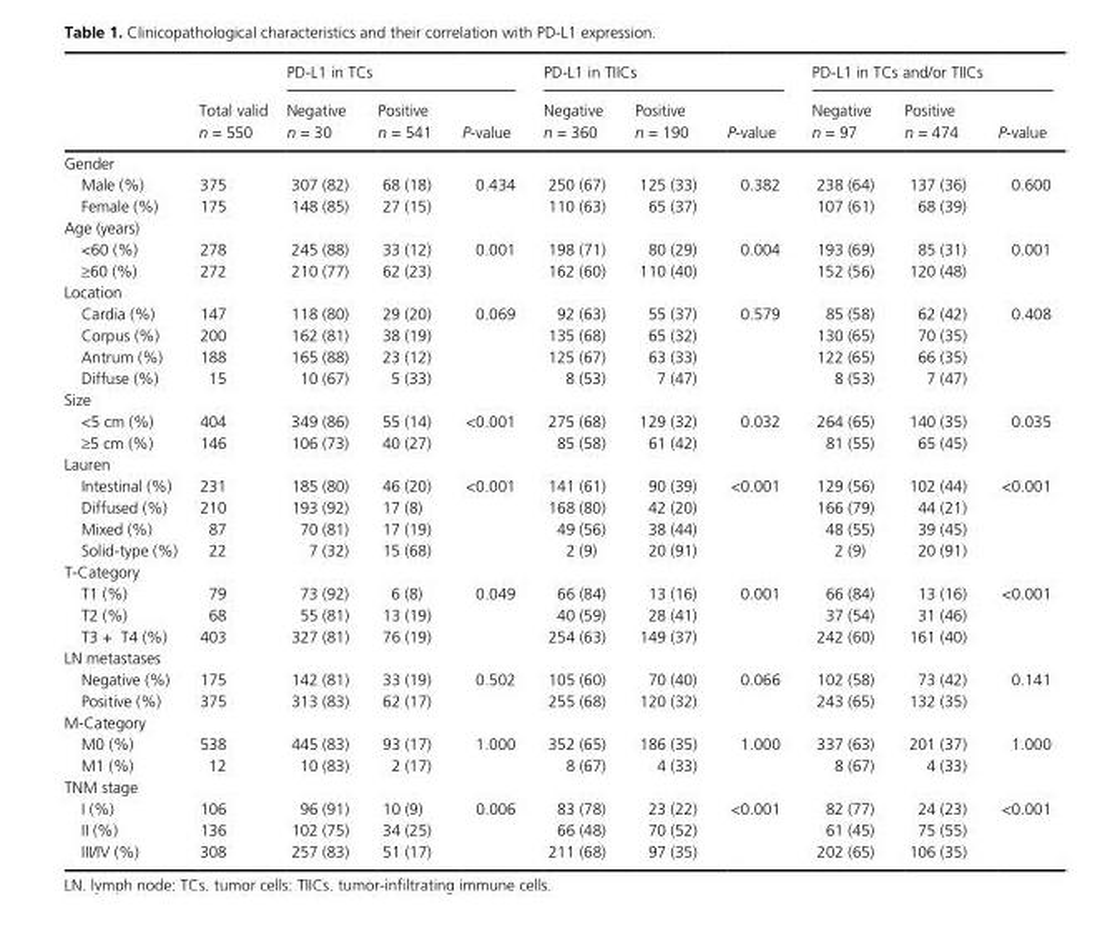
<table><thead><tr><td rowspan="2"></td><td rowspan="2">Total valid n = 550</td><td colspan="3">PD- L1 in TCs</td><td colspan="3">PD- L1 in TIICs</td><td colspan="3">PD- L1 in TCs and/or TIICs</td></tr><tr><td>Negative n = 30</td><td>Positive n = 541</td><td>P- value</td><td>Negative n = 360</td><td>Positive n = 190</td><td>P- value</td><td>Negative n = 97</td><td>Positive n = 474</td><td>P- value</td></tr></thead><tbody><tr><td colspan="11">Gender</td></tr><tr><td>Male (%)</td><td>375</td><td>307 (82)</td><td>68 (18)</td><td rowspan="2">0.434</td><td>250 (67)</td><td>125 (33)</td><td rowspan="2">0.382</td><td>238 (64)</td><td>137 (36)</td><td rowspan="2">0.600</td></tr><tr><td>Female (%)</td><td>175</td><td>148 (85)</td><td>27 (15)</td><td>110 (63)</td><td>65 (37)</td><td>107 (61)</td><td>68 (39)</td></tr><tr><td colspan="11">Age (years)</td></tr><tr><td>&lt;60 (%)</td><td>278</td><td>245 (88)</td><td>33 (12)</td><td rowspan="2">0.001</td><td>198 (71)</td><td>80 (29)</td><td rowspan="2">0.004</td><td>193 (69)</td><td>85 (31)</td><td rowspan="2">0.001</td></tr><tr><td>≥60 (%)</td><td>272</td><td>210 (77)</td><td>62 (23)</td><td>162 (60)</td><td>110 (40)</td><td>152 (56)</td><td>120 (48)</td></tr><tr><td colspan="11">Location</td></tr><tr><td>Cardia (%)</td><td>147</td><td>118 (80)</td><td>29 (20)</td><td rowspan="4">0.069</td><td>92 (63)</td><td>55 (37)</td><td rowspan="4">0.579</td><td>85 (58)</td><td>62 (42)</td><td rowspan="3">0.408</td></tr><tr><td>Corpus (%)</td><td>200</td><td>162 (81)</td><td>38 (19)</td><td>135 (68)</td><td>65 (32)</td><td>130 (65)</td><td>70 (35)</td></tr><tr><td>Antrum (%)</td><td>188</td><td>165 (88)</td><td>23 (12)</td><td>125 (67)</td><td>63 (33)</td><td>122 (65)</td><td>66 (35)</td></tr><tr><td>Diffuse (%)</td><td>15</td><td>10 (67)</td><td>5 (33)</td><td>8 (53)</td><td>7 (47)</td><td>8 (53)</td><td>7 (47)</td><td></td></tr><tr><td colspan="11">Size</td></tr><tr><td>&lt;5 cm (%)</td><td>404</td><td>349 (86)</td><td>55 (14)</td><td rowspan="2">&lt;0.001</td><td>275 (68)</td><td>129 (32)</td><td rowspan="2">0.032</td><td>264 (65)</td><td>140 (35)</td><td rowspan="2">0.035</td></tr><tr><td>≥5 cm (%)</td><td>146</td><td>106 (73)</td><td>40 (27)</td><td>85 (58)</td><td>61 (42)</td><td>81 (55)</td><td>65 (45)</td></tr><tr><td colspan="11">Lauren</td></tr><tr><td>Intestinal (%)</td><td>231</td><td>185 (80)</td><td>46 (20)</td><td rowspan="4">&lt;0.001</td><td>141 (61)</td><td>90 (39)</td><td rowspan="4">&lt;0.001</td><td>129 (56)</td><td>102 (44)</td><td rowspan="4">&lt;0.001</td></tr><tr><td>Diffused (%)</td><td>210</td><td>193 (92)</td><td>17 (8)</td><td>168 (80)</td><td>42 (20)</td><td>166 (79)</td><td>44 (21)</td></tr><tr><td>Mixed (%)</td><td>87</td><td>70 (81)</td><td>17 (19)</td><td>49 (56)</td><td>38 (44)</td><td>48 (55)</td><td>39 (45)</td></tr><tr><td>Solid- type (%)</td><td>22</td><td>7 (32)</td><td>15 (68)</td><td>2 (9)</td><td>20 (91)</td><td>2 (9)</td><td>20 (91)</td></tr><tr><td colspan="11">T- Category</td></tr><tr><td>T1 (%)</td><td>79</td><td>73 (92)</td><td>6 (8)</td><td rowspan="3">0.049</td><td>66 (84)</td><td>13 (16)</td><td rowspan="3">0.001</td><td>66 (84)</td><td>13 (16)</td><td rowspan="3">&lt;0.001</td></tr><tr><td>T2 (%)</td><td>68</td><td>55 (81)</td><td>13 (19)</td><td>40 (59)</td><td>28 (41)</td><td>37 (54)</td><td>31 (46)</td></tr><tr><td>T3 + T4 (%)</td><td>403</td><td>327 (81)</td><td>76 (19)</td><td>254 (63)</td><td>149 (37)</td><td>242 (60)</td><td>161 (40)</td></tr><tr><td colspan="11">LN metastases</td></tr><tr><td>Negative (%)</td><td>175</td><td>142 (81)</td><td>33 (19)</td><td rowspan="2">0.502</td><td>105 (60)</td><td>70 (40)</td><td rowspan="2">0.066</td><td>102 (58)</td><td>73 (42)</td><td rowspan="2">0.141</td></tr><tr><td>Positive (%)</td><td>375</td><td>313 (83)</td><td>62 (17)</td><td>255 (68)</td><td>120 (32)</td><td>243 (65)</td><td>132 (35)</td></tr><tr><td colspan="11">M- Category</td></tr><tr><td>M0 (%)</td><td>538</td><td>445 (83)</td><td>93 (17)</td><td rowspan="2">1.000</td><td>352 (65)</td><td>186 (35)</td><td rowspan="2">1.000</td><td>337 (63)</td><td>201 (37)</td><td rowspan="2">1.000</td></tr><tr><td>M1 (%)</td><td>12</td><td>10 (83)</td><td>2 (17)</td><td>8 (67)</td><td>4 (33)</td><td>8 (67)</td><td>4 (33)</td></tr><tr><td colspan="11">TNM stage</td></tr><tr><td>I (%)</td><td>106</td><td>96 (91)</td><td>10 (9)</td><td rowspan="3">0.006</td><td>83 (78)</td><td>23 (22)</td><td rowspan="3">&lt;0.001</td><td>82 (77)</td><td>24 (23)</td><td rowspan="3">&lt;0.001</td></tr><tr><td>II (%)</td><td>136</td><td>102 (75)</td><td>34 (25)</td><td>66 (48)</td><td>70 (52)</td><td>61 (45)</td><td>75 (55)</td></tr><tr><td>III/IV (%)</td><td>308</td><td>257 (83)</td><td>51 (17)</td><td>211 (68)</td><td>97 (35)</td><td>202 (65)</td><td>106 (35)</td></tr></tbody></table>